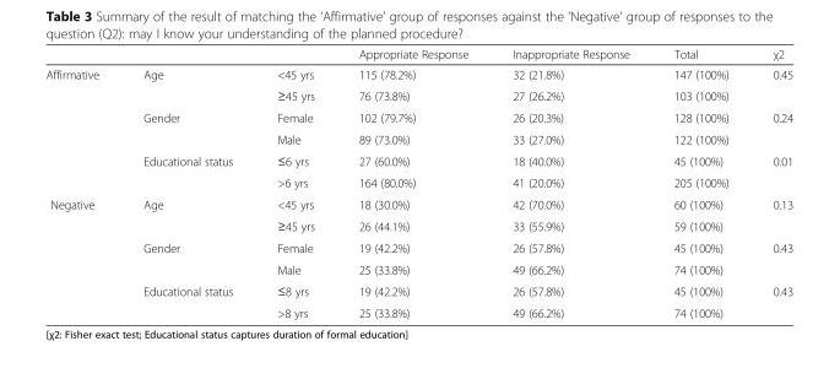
<table><thead><tr><td></td><td></td><td></td><td>Appropriate Response</td><td>Inappropriate Response</td><td>Total</td><td>χ2</td></tr></thead><tbody><tr><td rowspan="6">Affirmative</td><td rowspan="2">Age</td><td>&lt;45 yrs</td><td>115 (78.2%)</td><td>32 (21.8%)</td><td>147 (100%)</td><td rowspan="2">0.45</td></tr><tr><td>≥45 yrs</td><td>76 (73.8%)</td><td>27 (26.2%)</td><td>103 (100%)</td></tr><tr><td rowspan="2">Gender</td><td>Female</td><td>102 (79.7%)</td><td>26 (20.3%)</td><td>128 (100%)</td><td rowspan="2">0.24</td></tr><tr><td>Male</td><td>89 (73.0%)</td><td>33 (27.0%)</td><td>122 (100%)</td></tr><tr><td rowspan="2">Educational status</td><td>≤6 yrs</td><td>27 (60.0%)</td><td>18 (40.0%)</td><td>45 (100%)</td><td rowspan="2">0.01</td></tr><tr><td>&gt;6 yrs</td><td>164 (80.0%)</td><td>41 (20.0%)</td><td>205 (100%)</td></tr><tr><td rowspan="6">Negative</td><td rowspan="2">Age</td><td>&lt;45 yrs</td><td>18 (30.0%)</td><td>42 (70.0%)</td><td>60 (100%)</td><td rowspan="2">0.13</td></tr><tr><td>≥45 yrs</td><td>26 (44.1%)</td><td>33 (55.9%)</td><td>59 (100%)</td></tr><tr><td rowspan="2">Gender</td><td>Female</td><td>19 (42.2%)</td><td>26 (57.8%)</td><td>45 (100%)</td><td rowspan="2">0.43</td></tr><tr><td>Male</td><td>25 (33.8%)</td><td>49 (66.2%)</td><td>74 (100%)</td></tr><tr><td rowspan="2">Educational status</td><td>≤8 yrs</td><td>19 (42.2%)</td><td>26 (57.8%)</td><td>45 (100%)</td><td rowspan="2">0.43</td></tr><tr><td>&gt;8 yrs</td><td>25 (33.8%)</td><td>49 (66.2%)</td><td>74 (100%)</td></tr></tbody></table>